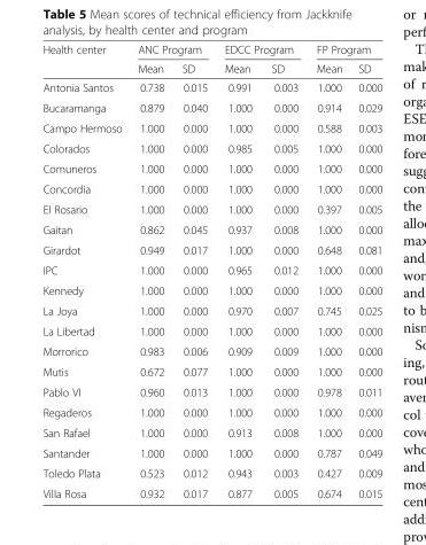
<table><thead><tr><td rowspan="2">Health center</td><td colspan="2">ANC Program</td><td colspan="2">EDCC Program</td><td colspan="2">FP Program</td></tr><tr><td>Mean</td><td>SD</td><td>Mean</td><td>SD</td><td>Mean</td><td>SD</td></tr></thead><tbody><tr><td>Antonia Santos</td><td>0.738</td><td>0.015</td><td>0.991</td><td>0.003</td><td>1.000</td><td>0.000</td></tr><tr><td>Bucaramanga</td><td>0.879</td><td>0.040</td><td>1.000</td><td>0.000</td><td>0.914</td><td>0.029</td></tr><tr><td>Campo Hermoso</td><td>1.000</td><td>0.000</td><td>1.000</td><td>0.000</td><td>0.588</td><td>0.003</td></tr><tr><td>Colorados</td><td>1.000</td><td>0.000</td><td>0.985</td><td>0.005</td><td>1.000</td><td>0.000</td></tr><tr><td>Comuneros</td><td>1.000</td><td>0.000</td><td>1.000</td><td>0.000</td><td>1.000</td><td>0.000</td></tr><tr><td>Concordia</td><td>1.000</td><td>0.000</td><td>1.000</td><td>0.000</td><td>1.000</td><td>0.000</td></tr><tr><td>El Rosario</td><td>1.000</td><td>0.000</td><td>1.000</td><td>0.000</td><td>0.397</td><td>0.005</td></tr><tr><td>Gaitan</td><td>0.862</td><td>0.045</td><td>0.937</td><td>0.008</td><td>1.000</td><td>0.000</td></tr><tr><td>Girardot</td><td>0.949</td><td>0.017</td><td>1.000</td><td>0.000</td><td>0.648</td><td>0.081</td></tr><tr><td>IPC</td><td>1.000</td><td>0.000</td><td>0.965</td><td>0.012</td><td>1.000</td><td>0.000</td></tr><tr><td>Kennedy</td><td>1.000</td><td>0.000</td><td>1.000</td><td>0.000</td><td>1.000</td><td>0.000</td></tr><tr><td>La Joya</td><td>1.000</td><td>0.000</td><td>0.970</td><td>0.007</td><td>0.745</td><td>0.025</td></tr><tr><td>La Libertad</td><td>1.000</td><td>0.000</td><td>1.000</td><td>0.000</td><td>1.000</td><td>0.000</td></tr><tr><td>Morrorico</td><td>0.983</td><td>0.006</td><td>0.909</td><td>0.009</td><td>1.000</td><td>0.000</td></tr><tr><td>Mutis</td><td>0.672</td><td>0.077</td><td>1.000</td><td>0.000</td><td>1.000</td><td>0.000</td></tr><tr><td>Pablo VI</td><td>0.960</td><td>0.013</td><td>1.000</td><td>0.000</td><td>0.978</td><td>0.011</td></tr><tr><td>Regaderos</td><td>1.000</td><td>0.000</td><td>1.000</td><td>0.000</td><td>1.000</td><td>0.000</td></tr><tr><td>San Rafael</td><td>1.000</td><td>0.000</td><td>0.913</td><td>0.008</td><td>1.000</td><td>0.000</td></tr><tr><td>Santander</td><td>1.000</td><td>0.000</td><td>1.000</td><td>0.000</td><td>0.787</td><td>0.049</td></tr><tr><td>Toledo Plata</td><td>0.523</td><td>0.012</td><td>0.943</td><td>0.003</td><td>0.427</td><td>0.009</td></tr><tr><td>Villa Rosa</td><td>0.932</td><td>0.017</td><td>0.877</td><td>0.005</td><td>0.674</td><td>0.015</td></tr></tbody></table>